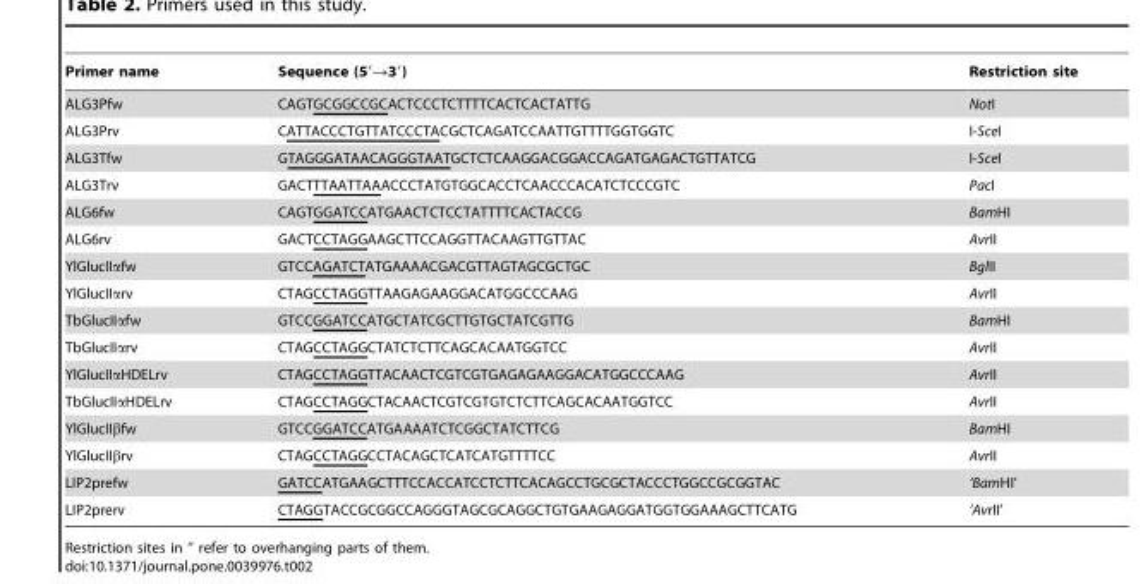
<table><thead><tr><td>Primer name</td><td>Sequence (5′→3′)</td><td>Restriction site</td></tr></thead><tbody><tr><td>ALG3Pfw</td><td>CAGTGCGGCCGCACTCCCTCTTTTCACTCACTATTG</td><td>NotI</td></tr><tr><td>ALG3Prv</td><td>CATTACCCTGTTATCCCTACGCTCAGATCCAATTGTTTTGGTGGTC</td><td>I-SceI</td></tr><tr><td>ALG3Tfw</td><td>GTAGGGATAACAGGGTAATGCTCTCAAGGACGGACCAGATGAGACTGTTATCG</td><td>I-SceI</td></tr><tr><td>ALG3Trv</td><td>GACTTTAATTAAACCCTATGTGGCACCTCAACCCACATCTCCCGTC</td><td>PacI</td></tr><tr><td>ALG6fw</td><td>CAGTGGATCCATGAACTCTCCTATTTTCACTACCG</td><td>BamHI</td></tr><tr><td>ALG6rv</td><td>GACTCCTAGGAAGCTTCCAGGTTACAAGTTGTTAC</td><td>AvrII</td></tr><tr><td>YlGlucIIαfw</td><td>GTCCAGATCTATGAAAACGACGTTAGTAGCGCTGC</td><td>BglII</td></tr><tr><td>YlGlucIIαrv</td><td>CTAGCCTAGGTTAAGAGAAGGACATGGCCCAAG</td><td>AvrII</td></tr><tr><td>TbGlucIIαfw</td><td>GTCCGGATCCATGCTATCGCTTGTGCTATCGTTG</td><td>BamHI</td></tr><tr><td>TbGlucIIαrv</td><td>CTAGCCTAGGCTATCTCTTCAGCACAATGGTCC</td><td>AvrII</td></tr><tr><td>YlGlucIIαHDELrv</td><td>CTAGCCTAGGTTACAACTCGTCGTGAGAGAAGGACATGGCCCAAG</td><td>AvrII</td></tr><tr><td>TbGlucIIαHDELrv</td><td>CTAGCCTAGGCTACAACTCGTCGTGTCTCTTCAGCACAATGGTCC</td><td>AvrII</td></tr><tr><td>YlGlucIIβfw</td><td>GTCCGGATCCATGAAAATCTCGGCTATCTTCG</td><td>BamHI</td></tr><tr><td>YlGlucIIβrv</td><td>CTAGCCTAGGCCTACAGCTCATCATGTTTTCC</td><td>AvrII</td></tr><tr><td>LIP2prefw</td><td>GATCCATGAAGCTTTCCACCATCCTCTTCACAGCCTGCGCTACCCTGGCCGCGGTAC</td><td>‘BamHI’</td></tr><tr><td>LIP2prerv</td><td>CTAGGTACCGCGGCCAGGGTAGCGCAGGCTGTGAAGAGGATGGTGGAAAGCTTCATG</td><td>‘AvrII’</td></tr></tbody></table>